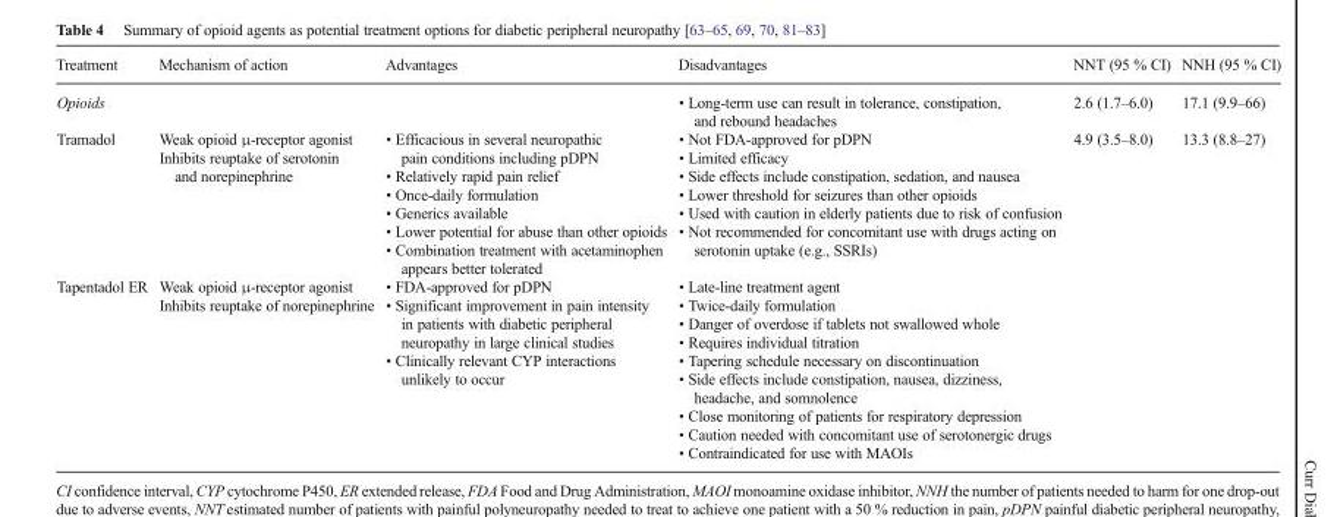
<table><thead><tr><td>Treatment</td><td>Mechanism of action</td><td>Advantages</td><td>Disadvantages</td><td>NNT (95 % CI)</td><td>NNH (95 % CI)</td></tr></thead><tbody><tr><td>Opioids</td><td></td><td></td><td>• Long-term use can result in tolerance, constipation, and rebound headaches</td><td>2.6 (1.7–6.0)</td><td>17.1 (9.9–66)</td></tr><tr><td>Tramadol</td><td>Weak opioid μ-receptor agonist Inhibits reuptake of serotonin and norepinephrine</td><td>• Efficacious in several neuropathic pain conditions including pDPN • Relatively rapid pain relief • Once-daily formulation • Generics available • Lower potential for abuse than other opioids • Combination treatment with acetaminophen appears better tolerated</td><td>• Not FDA-approved for pDPN • Limited efficacy • Side effects include constipation, sedation, and nausea • Lower threshold for seizures than other opioids • Used with caution in elderly patients due to risk of confusion • Not recommended for concomitant use with drugs acting on serotonin uptake (e.g., SSRIs)</td><td>4.9 (3.5–8.0)</td><td>13.3 (8.8–27)</td></tr><tr><td>Tapentadol ER</td><td>Weak opioid μ-receptor agonist Inhibits reuptake of norepinephrine</td><td>• FDA-approved for pDPN • Significant improvement in pain intensity in patients with diabetic peripheral neuropathy in large clinical studies • Clinically relevant CYP interactions unlikely to occur</td><td>• Late-line treatment agent • Twice-daily formulation • Danger of overdose if tablets not swallowed whole • Requires individual titration • Tapering schedule necessary on discontinuation • Side effects include constipation, nausea, dizziness, headache, and somnolence • Close monitoring of patients for respiratory depression • Caution needed with concomitant use of serotonergic drugs • Contraindicated for use with MAOIs</td><td></td><td></td></tr></tbody></table>